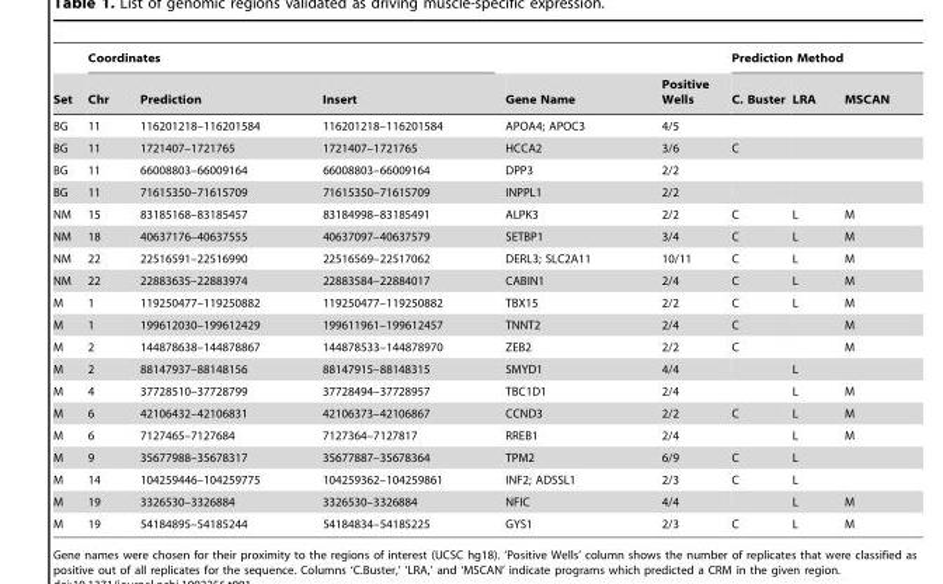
<table><thead><tr><td rowspan="2">Set</td><td colspan="3">Coordinates</td><td rowspan="2">Gene Name</td><td rowspan="2">Positive Wells</td><td colspan="3">Prediction Method</td></tr><tr><td>Chr</td><td>Prediction</td><td>Insert</td><td>C. Buster</td><td>LRA</td><td>MSCAN</td></tr></thead><tbody><tr><td>BG</td><td>11</td><td>116201218–116201584</td><td>116201218–116201584</td><td>APOA4; APOC3</td><td>4/5</td><td></td><td></td><td></td></tr><tr><td>BG</td><td>11</td><td>1721407–1721765</td><td>1721407–1721765</td><td>HCCA2</td><td>3/6</td><td>C</td><td></td><td></td></tr><tr><td>BG</td><td>11</td><td>66008803–66009164</td><td>66008803–66009164</td><td>DPP3</td><td>2/2</td><td></td><td></td><td></td></tr><tr><td>BG</td><td>11</td><td>71615350–71615709</td><td>71615350–71615709</td><td>INPPL1</td><td>2/2</td><td></td><td></td><td></td></tr><tr><td>NM</td><td>15</td><td>83185168–83185457</td><td>83184998–83185491</td><td>ALPK3</td><td>2/2</td><td>C</td><td>L</td><td>M</td></tr><tr><td>NM</td><td>18</td><td>40637176–40637555</td><td>40637097–40637579</td><td>SETBP1</td><td>3/4</td><td>C</td><td>L</td><td>M</td></tr><tr><td>NM</td><td>22</td><td>22516591–22516990</td><td>22516569–22517062</td><td>DERL3; SLC2A11</td><td>10/11</td><td>C</td><td>L</td><td>M</td></tr><tr><td>NM</td><td>22</td><td>22883635–22883974</td><td>22883584–22884017</td><td>CABIN1</td><td>2/4</td><td>C</td><td>L</td><td>M</td></tr><tr><td>M</td><td>1</td><td>119250477–119250882</td><td>119250477–119250882</td><td>TBX15</td><td>2/2</td><td>C</td><td>L</td><td>M</td></tr><tr><td>M</td><td>1</td><td>199612030–199612429</td><td>199611961–199612457</td><td>TNNT2</td><td>2/4</td><td>C</td><td></td><td>M</td></tr><tr><td>M</td><td>2</td><td>144878638–144878867</td><td>144878533–144878970</td><td>ZEB2</td><td>2/2</td><td>C</td><td></td><td>M</td></tr><tr><td>M</td><td>2</td><td>88147937–88148156</td><td>88147915–88148315</td><td>SMYD1</td><td>4/4</td><td></td><td>L</td><td></td></tr><tr><td>M</td><td>4</td><td>37728510–37728799</td><td>37728494–37728957</td><td>TBC1D1</td><td>2/4</td><td></td><td>L</td><td>M</td></tr><tr><td>M</td><td>6</td><td>42106432–42106831</td><td>42106373–42106867</td><td>CCND3</td><td>2/2</td><td>C</td><td>L</td><td>M</td></tr><tr><td>M</td><td>6</td><td>7127465–7127684</td><td>7127364–7127817</td><td>RREB1</td><td>2/4</td><td></td><td>L</td><td>M</td></tr><tr><td>M</td><td>9</td><td>35677988–35678317</td><td>35677887–35678364</td><td>TPM2</td><td>6/9</td><td>C</td><td>L</td><td></td></tr><tr><td>M</td><td>14</td><td>104259446–104259775</td><td>104259362–104259861</td><td>INF2; ADSSL1</td><td>2/3</td><td>C</td><td>L</td><td></td></tr><tr><td>M</td><td>19</td><td>3326530–3326884</td><td>3326530–3326884</td><td>NFIC</td><td>4/4</td><td></td><td>L</td><td>M</td></tr><tr><td>M</td><td>19</td><td>54184895–54185244</td><td>54184834–54185225</td><td>GYS1</td><td>2/3</td><td>C</td><td>L</td><td>M</td></tr></tbody></table>